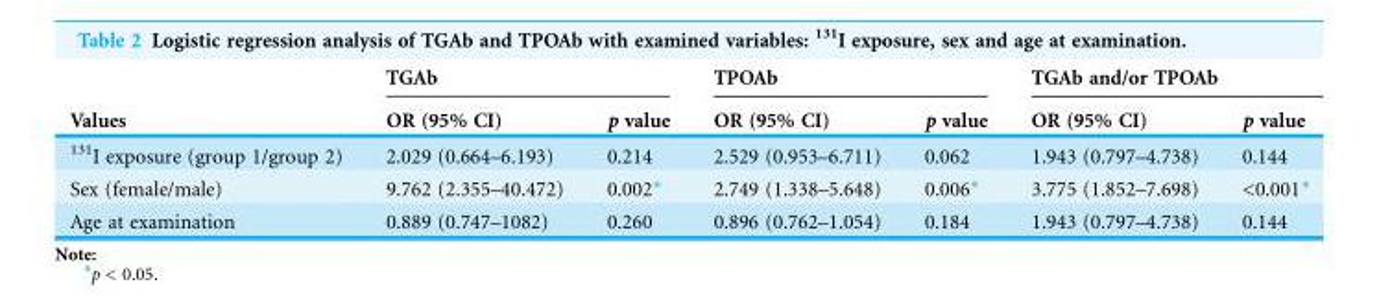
<table><thead><tr><td rowspan="2">Values</td><td colspan="2">TGAb</td><td colspan="2">TPOAb</td><td colspan="2">TGAb and/or TPOAb</td></tr><tr><td>OR (95% CI)</td><td>p value</td><td>OR (95% CI)</td><td>p value</td><td>OR (95% CI)</td><td>p value</td></tr></thead><tbody><tr><td><sup>131</sup>I exposure (group 1/group 2)</td><td>2.029 (0.664–6.193)</td><td>0.214</td><td>2.529 (0.953–6.711)</td><td>0.062</td><td>1.943 (0.797–4.738)</td><td>0.144</td></tr><tr><td>Sex (female/male)</td><td>9.762 (2.355–40.472)</td><td>0.002*</td><td>2.749 (1.338–5.648)</td><td>0.006*</td><td>3.775 (1.852–7.698)</td><td>&lt;0.001*</td></tr><tr><td>Age at examination</td><td>0.889 (0.747–1082)</td><td>0.260</td><td>0.896 (0.762–1.054)</td><td>0.184</td><td>1.943 (0.797–4.738)</td><td>0.144</td></tr></tbody></table>